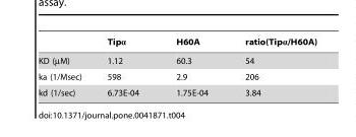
<table><thead><tr><td></td><td>Tipα</td><td>H60A</td><td>ratio(Tipα/H60A)</td></tr></thead><tbody><tr><td>KD (µM)</td><td>1.12</td><td>60.3</td><td>54</td></tr><tr><td>ka (1/Msec)</td><td>598</td><td>2.9</td><td>206</td></tr><tr><td>kd (1/sec)</td><td>6.73E-04</td><td>1.75E-04</td><td>3.84</td></tr></tbody></table>